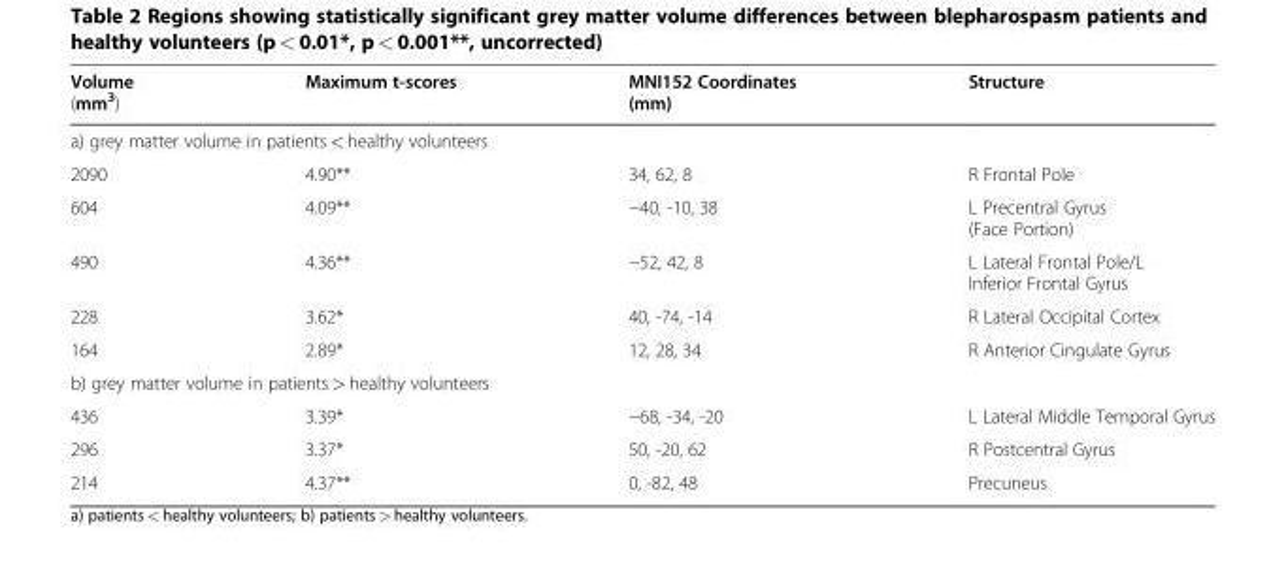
<table><thead><tr><td>Volume (mm<sup>3</sup>)</td><td>Maximum t-scores</td><td>MNI152 Coordinates (mm)</td><td>Structure</td></tr></thead><tbody><tr><td colspan="4">a) grey matter volume in patients &lt; healthy volunteers</td></tr><tr><td>2090</td><td>4.90**</td><td>34, 62, 8</td><td>R Frontal Pole</td></tr><tr><td>604</td><td>4.09**</td><td>−40, -10, 38</td><td>L Precentral Gyrus (Face Portion)</td></tr><tr><td>490</td><td>4.36**</td><td>−52, 42, 8</td><td>L Lateral Frontal Pole/L Inferior Frontal Gyrus</td></tr><tr><td>228</td><td>3.62*</td><td>40, -74, -14</td><td>R Lateral Occipital Cortex</td></tr><tr><td>164</td><td>2.89*</td><td>12, 28, 34</td><td>R Anterior Cingulate Gyrus</td></tr><tr><td colspan="4">b) grey matter volume in patients &gt; healthy volunteers</td></tr><tr><td>436</td><td>3.39*</td><td>−68, -34, -20</td><td>L Lateral Middle Temporal Gyrus</td></tr><tr><td>296</td><td>3.37*</td><td>50, -20, 62</td><td>R Postcentral Gyrus</td></tr><tr><td>214</td><td>4.37**</td><td>0, -82, 48</td><td>Precuneus</td></tr></tbody></table>